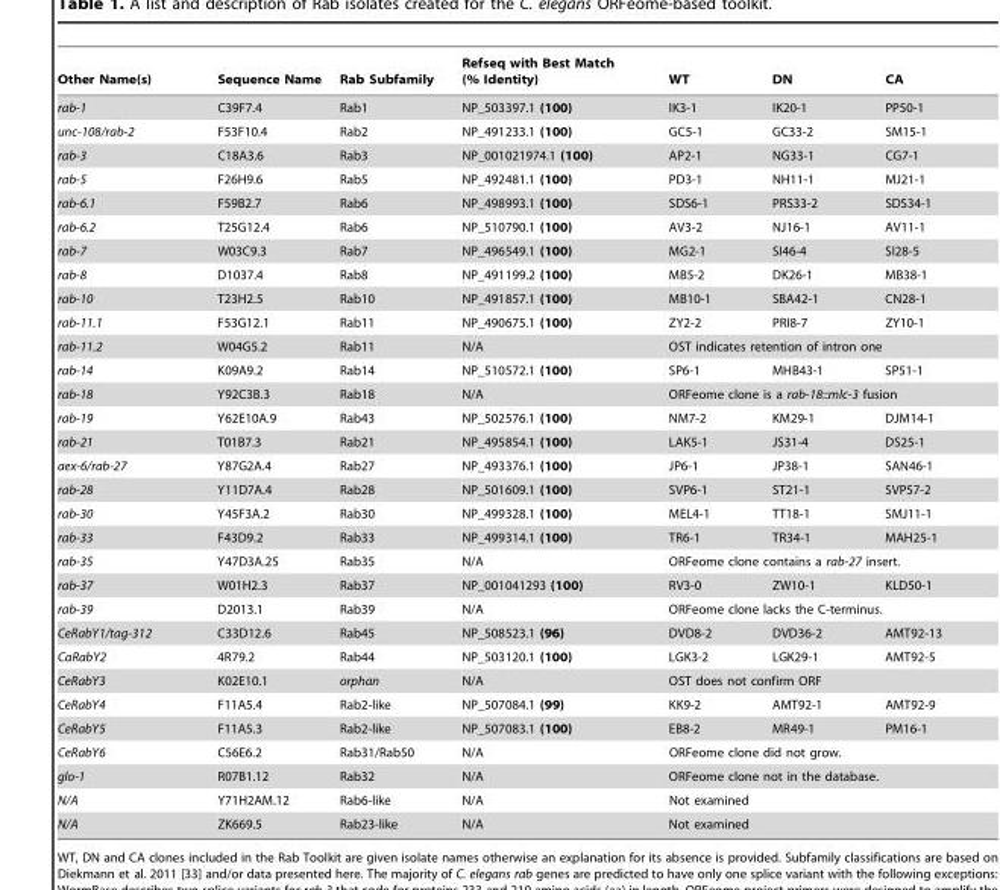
<table><thead><tr><td>Other Name(s)</td><td>Sequence Name</td><td>Rab Subfamily</td><td>Refseq with Best Match (% Identity)</td><td>WT</td><td>DN</td><td>CA</td></tr></thead><tbody><tr><td>rab-1</td><td>C39F7.4</td><td>Rab1</td><td>NP_503397.1 (100)</td><td>IK3-1</td><td>IK20-1</td><td>PP50-1</td></tr><tr><td>unc-108/rab-2</td><td>F53F10.4</td><td>Rab2</td><td>NP_491233.1 (100)</td><td>GC5-1</td><td>GC33-2</td><td>SM15-1</td></tr><tr><td>rab-3</td><td>C18A3.6</td><td>Rab3</td><td>NP_001021974.1 (100)</td><td>AP2-1</td><td>NG33-1</td><td>CG7-1</td></tr><tr><td>rab-5</td><td>F26H9.6</td><td>Rab5</td><td>NP_492481.1 (100)</td><td>PD3-1</td><td>NH11-1</td><td>MJ21-1</td></tr><tr><td>rab-6.1</td><td>F59B2.7</td><td>Rab6</td><td>NP_498993.1 (100)</td><td>SDS6-1</td><td>PRS33-2</td><td>SDS34-1</td></tr><tr><td>rab-6.2</td><td>T25G12.4</td><td>Rab6</td><td>NP_510790.1 (100)</td><td>AV3-2</td><td>NJ16-1</td><td>AV11-1</td></tr><tr><td>rab-7</td><td>W03C9.3</td><td>Rab7</td><td>NP_496549.1 (100)</td><td>MG2-1</td><td>SI46-4</td><td>SI28-5</td></tr><tr><td>rab-8</td><td>D1037.4</td><td>Rab8</td><td>NP_491199.2 (100)</td><td>MB5-2</td><td>DK26-1</td><td>MB38-1</td></tr><tr><td>rab-10</td><td>T23H2.5</td><td>Rab10</td><td>NP_491857.1 (100)</td><td>MB10-1</td><td>SBA42-1</td><td>CN28-1</td></tr><tr><td>rab-11.1</td><td>F53G12.1</td><td>Rab11</td><td>NP_490675.1 (100)</td><td>ZY2-2</td><td>PRI8-7</td><td>ZY10-1</td></tr><tr><td>rab-11.2</td><td>W04G5.2</td><td>Rab11</td><td>N/A</td><td colspan="3">OST indicates retention of intron one</td></tr><tr><td>rab-14</td><td>K09A9.2</td><td>Rab14</td><td>NP_510572.1 (100)</td><td>SP6-1</td><td>MHB43-1</td><td>SP51-1</td></tr><tr><td>rab-18</td><td>Y92C3B.3</td><td>Rab18</td><td>N/A</td><td colspan="3">ORFeome clone is a rab-18::mlc-3 fusion</td></tr><tr><td>rab-19</td><td>Y62E10A.9</td><td>Rab43</td><td>NP_502576.1 (100)</td><td>NM7-2</td><td>KM29-1</td><td>DJM14-1</td></tr><tr><td>rab-21</td><td>T01B7.3</td><td>Rab21</td><td>NP_495854.1 (100)</td><td>LAK5-1</td><td>JS31-4</td><td>DS25-1</td></tr><tr><td>aex-6/rab-27</td><td>Y87G2A.4</td><td>Rab27</td><td>NP_493376.1 (100)</td><td>JP6-1</td><td>JP38-1</td><td>SAN46-1</td></tr><tr><td>rab-28</td><td>Y11D7A.4</td><td>Rab28</td><td>NP_501609.1 (100)</td><td>SVP6-1</td><td>ST21-1</td><td>SVP57-2</td></tr><tr><td>rab-30</td><td>Y45F3A.2</td><td>Rab30</td><td>NP_499328.1 (100)</td><td>MEL4-1</td><td>TT18-1</td><td>SMJ11-1</td></tr><tr><td>rab-33</td><td>F43D9.2</td><td>Rab33</td><td>NP_499314.1 (100)</td><td>TR6-1</td><td>TR34-1</td><td>MAH25-1</td></tr><tr><td>rab-35</td><td>Y47D3A.25</td><td>Rab35</td><td>N/A</td><td colspan="3">ORFeome clone contains a rab-27 insert.</td></tr><tr><td>rab-37</td><td>W01H2.3</td><td>Rab37</td><td>NP_001041293 (100)</td><td>RV3-0</td><td>ZW10-1</td><td>KLD50-1</td></tr><tr><td>rab-39</td><td>D2013.1</td><td>Rab39</td><td>N/A</td><td colspan="3">ORFeome clone lacks the C-terminus.</td></tr><tr><td>CeRabY1/tag-312</td><td>C33D12.6</td><td>Rab45</td><td>NP_508523.1 (96)</td><td>DVD8-2</td><td>DVD36-2</td><td>AMT92-13</td></tr><tr><td>CaRabY2</td><td>4R79.2</td><td>Rab44</td><td>NP_503120.1 (100)</td><td>LGK3-2</td><td>LGK29-1</td><td>AMT92-5</td></tr><tr><td>CeRabY3</td><td>K02E10.1</td><td>orphan</td><td>N/A</td><td colspan="3">OST does not confirm ORF</td></tr><tr><td>CeRabY4</td><td>F11A5.4</td><td>Rab2-like</td><td>NP_507084.1 (99)</td><td>KK9-2</td><td>AMT92-1</td><td>AMT92-9</td></tr><tr><td>CeRabY5</td><td>F11A5.3</td><td>Rab2-like</td><td>NP_507083.1 (100)</td><td>EB8-2</td><td>MR49-1</td><td>PM16-1</td></tr><tr><td>CeRabY6</td><td>C56E6.2</td><td>Rab31/Rab50</td><td>N/A</td><td colspan="3">ORFeome clone did not grow.</td></tr><tr><td>glo-1</td><td>R07B1.12</td><td>Rab32</td><td>N/A</td><td colspan="3">ORFeome clone not in the database.</td></tr><tr><td>N/A</td><td>Y71H2AM.12</td><td>Rab6-like</td><td>N/A</td><td colspan="3">Not examined</td></tr><tr><td>N/A</td><td>ZK669.5</td><td>Rab23-like</td><td>N/A</td><td colspan="3">Not examined</td></tr></tbody></table>